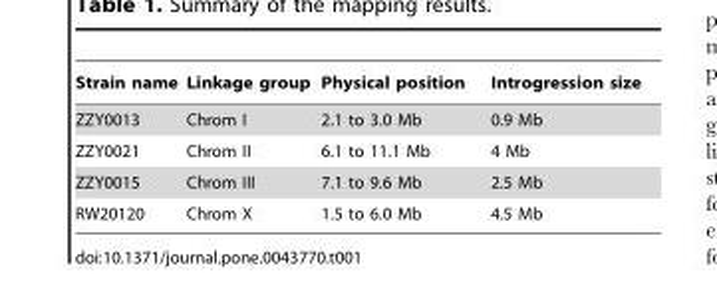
<table><thead><tr><td>Strain name</td><td>Linkage group</td><td>Physical position</td><td>Introgression size</td></tr></thead><tbody><tr><td>ZZY0013</td><td>Chrom I</td><td>2.1 to 3.0 Mb</td><td>0.9 Mb</td></tr><tr><td>ZZY0021</td><td>Chrom II</td><td>6.1 to 11.1 Mb</td><td>4 Mb</td></tr><tr><td>ZZY0015</td><td>Chrom III</td><td>7.1 to 9.6 Mb</td><td>2.5 Mb</td></tr><tr><td>RW20120</td><td>Chrom X</td><td>1.5 to 6.0 Mb</td><td>4.5 Mb</td></tr></tbody></table>